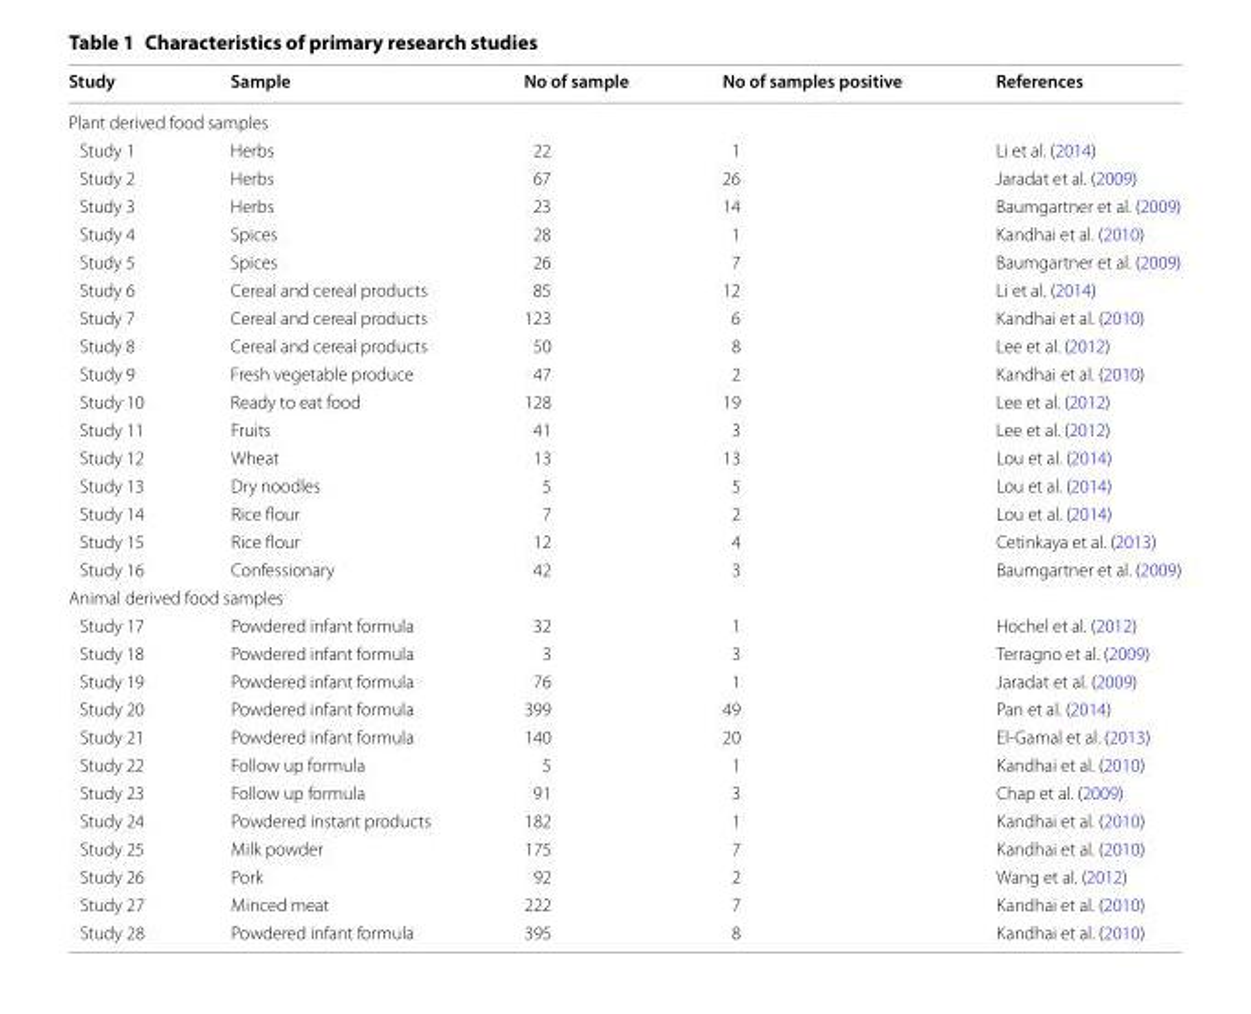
<table><thead><tr><td>Study</td><td>Sample</td><td>No of sample</td><td>No of samples positive</td><td>References</td></tr></thead><tbody><tr><td colspan="5">Plant derived food samples</td></tr><tr><td>Study 1</td><td>Herbs</td><td>22</td><td>1</td><td>Li et al. (2014)</td></tr><tr><td>Study 2</td><td>Herbs</td><td>67</td><td>26</td><td>Jaradat et al. (2009)</td></tr><tr><td>Study 3</td><td>Herbs</td><td>23</td><td>14</td><td>Baumgartner et al. (2009)</td></tr><tr><td>Study 4</td><td>Spices</td><td>28</td><td>1</td><td>Kandhai et al. (2010)</td></tr><tr><td>Study 5</td><td>Spices</td><td>26</td><td>7</td><td>Baumgartner et al. (2009)</td></tr><tr><td>Study 6</td><td>Cereal and cereal products</td><td>85</td><td>12</td><td>Li et al. (2014)</td></tr><tr><td>Study 7</td><td>Cereal and cereal products</td><td>123</td><td>6</td><td>Kandhai et al. (2010)</td></tr><tr><td>Study 8</td><td>Cereal and cereal products</td><td>50</td><td>8</td><td>Lee et al. (2012)</td></tr><tr><td>Study 9</td><td>Fresh vegetable produce</td><td>47</td><td>2</td><td>Kandhai et al. (2010)</td></tr><tr><td>Study 10</td><td>Ready to eat food</td><td>128</td><td>19</td><td>Lee et al. (2012)</td></tr><tr><td>Study 11</td><td>Fruits</td><td>41</td><td>3</td><td>Lee et al. (2012)</td></tr><tr><td>Study 12</td><td>Wheat</td><td>13</td><td>13</td><td>Lou et al. (2014)</td></tr><tr><td>Study 13</td><td>Dry noodles</td><td>5</td><td>5</td><td>Lou et al. (2014)</td></tr><tr><td>Study 14</td><td>Rice flour</td><td>7</td><td>2</td><td>Lou et al. (2014)</td></tr><tr><td>Study 15</td><td>Rice flour</td><td>12</td><td>4</td><td>Cetinkaya et al. (2013)</td></tr><tr><td>Study 16</td><td>Confessionary</td><td>42</td><td>3</td><td>Baumgartner et al. (2009)</td></tr><tr><td colspan="5">Animal derived food samples</td></tr><tr><td>Study 17</td><td>Powdered infant formula</td><td>32</td><td>1</td><td>Hochel et al. (2012)</td></tr><tr><td>Study 18</td><td>Powdered infant formula</td><td>3</td><td>3</td><td>Terragno et al. (2009)</td></tr><tr><td>Study 19</td><td>Powdered infant formula</td><td>76</td><td>1</td><td>Jaradat et al. (2009)</td></tr><tr><td>Study 20</td><td>Powdered infant formula</td><td>399</td><td>49</td><td>Pan et al. (2014)</td></tr><tr><td>Study 21</td><td>Powdered infant formula</td><td>140</td><td>20</td><td>El-Gamal et al. (2013)</td></tr><tr><td>Study 22</td><td>Follow up formula</td><td>5</td><td>1</td><td>Kandhai et al. (2010)</td></tr><tr><td>Study 23</td><td>Follow up formula</td><td>91</td><td>3</td><td>Chap et al. (2009)</td></tr><tr><td>Study 24</td><td>Powdered instant products</td><td>182</td><td>1</td><td>Kandhai et al. (2010)</td></tr><tr><td>Study 25</td><td>Milk powder</td><td>175</td><td>7</td><td>Kandhai et al. (2010)</td></tr><tr><td>Study 26</td><td>Pork</td><td>92</td><td>2</td><td>Wang et al. (2012)</td></tr><tr><td>Study 27</td><td>Minced meat</td><td>222</td><td>7</td><td>Kandhai et al. (2010)</td></tr><tr><td>Study 28</td><td>Powdered infant formula</td><td>395</td><td>8</td><td>Kandhai et al. (2010)</td></tr></tbody></table>